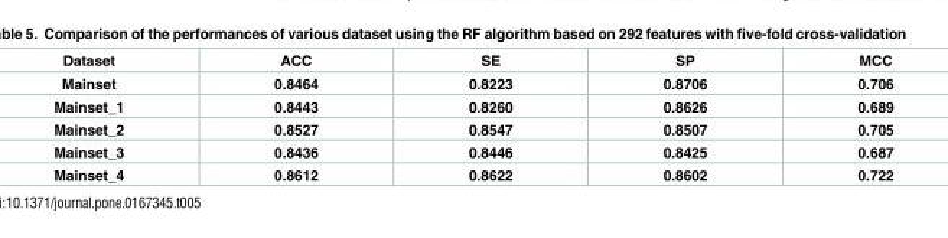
<table><thead><tr><td>Dataset</td><td>ACC</td><td>SE</td><td>SP</td><td>MCC</td></tr></thead><tbody><tr><td>Mainset</td><td>0.8464</td><td>0.8223</td><td>0.8706</td><td>0.706</td></tr><tr><td>Mainset_1</td><td>0.8443</td><td>0.8260</td><td>0.8626</td><td>0.689</td></tr><tr><td>Mainset_2</td><td>0.8527</td><td>0.8547</td><td>0.8507</td><td>0.705</td></tr><tr><td>Mainset_3</td><td>0.8436</td><td>0.8446</td><td>0.8425</td><td>0.687</td></tr><tr><td>Mainset_4</td><td>0.8612</td><td>0.8622</td><td>0.8602</td><td>0.722</td></tr></tbody></table>